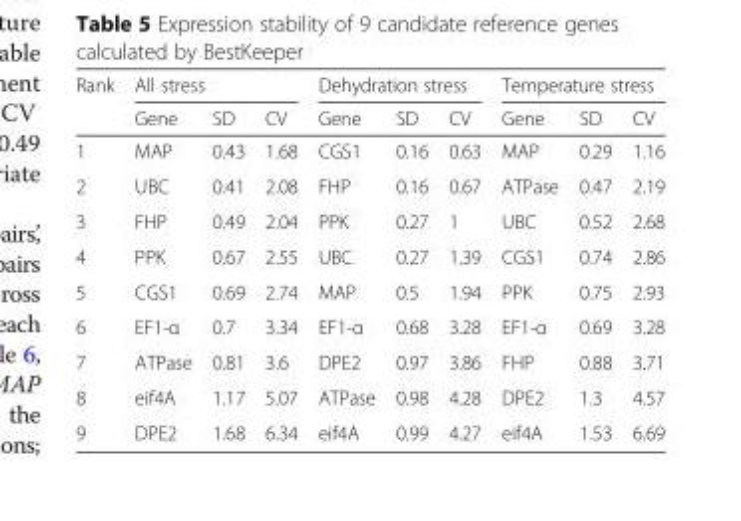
<table><thead><tr><td rowspan="2">Rank</td><td colspan="3">All stress</td><td colspan="3">Dehydration stress</td><td colspan="3">Temperature stress</td></tr><tr><td>Gene</td><td>SD</td><td>CV</td><td>Gene</td><td>SD</td><td>CV</td><td>Gene</td><td>SD</td><td>CV</td></tr></thead><tbody><tr><td>1</td><td>MAP</td><td>0.43</td><td>1.68</td><td>CGS1</td><td>0.16</td><td>0.63</td><td>MAP</td><td>0.29</td><td>1.16</td></tr><tr><td>2</td><td>UBC</td><td>0.41</td><td>2.08</td><td>FHP</td><td>0.16</td><td>0.67</td><td>ATPase</td><td>0.47</td><td>2.19</td></tr><tr><td>3</td><td>FHP</td><td>0.49</td><td>2.04</td><td>PPK</td><td>0.27</td><td>1</td><td>UBC</td><td>0.52</td><td>2.68</td></tr><tr><td>4</td><td>PPK</td><td>0.67</td><td>2.55</td><td>UBC</td><td>0.27</td><td>1.39</td><td>CGS1</td><td>0.74</td><td>2.86</td></tr><tr><td>5</td><td>CGS1</td><td>0.69</td><td>2.74</td><td>MAP</td><td>0.5</td><td>1.94</td><td>PPK</td><td>0.75</td><td>2.93</td></tr><tr><td>6</td><td>EF1-α</td><td>0.7</td><td>3.34</td><td>EF1-α</td><td>0.68</td><td>3.28</td><td>EF1-α</td><td>0.69</td><td>3.28</td></tr><tr><td>7</td><td>ATPase</td><td>0.81</td><td>3.6</td><td>DPE2</td><td>0.97</td><td>3.86</td><td>FHP</td><td>0.88</td><td>3.71</td></tr><tr><td>8</td><td>eif4A</td><td>1.17</td><td>5.07</td><td>ATPase</td><td>0.98</td><td>4.28</td><td>DPE2</td><td>1.3</td><td>4.57</td></tr><tr><td>9</td><td>DPE2</td><td>1.68</td><td>6.34</td><td>eif4A</td><td>0.99</td><td>4.27</td><td>eif4A</td><td>1.53</td><td>6.69</td></tr></tbody></table>